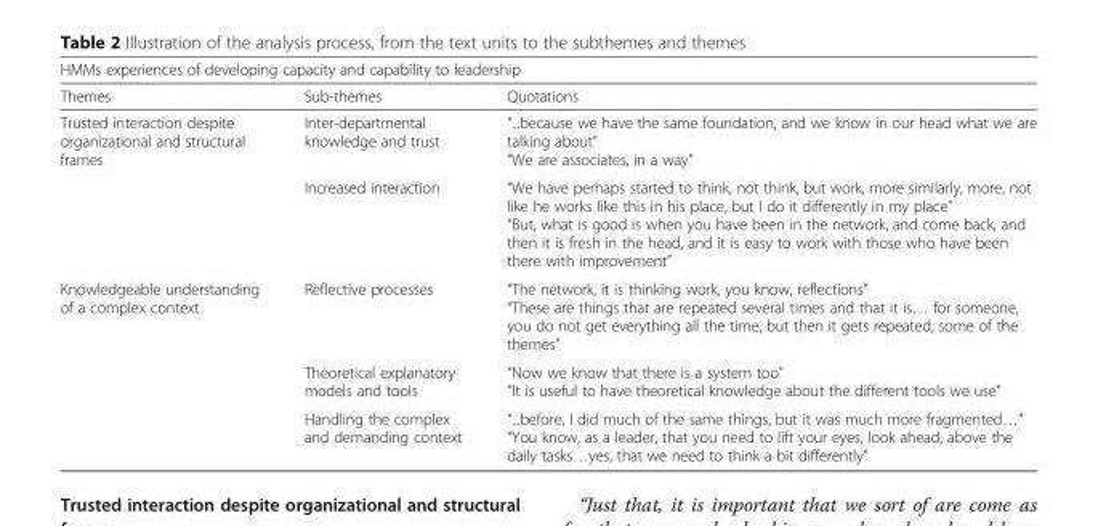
<table><thead><tr><td colspan="3">HMMs experiences of developing capacity and capability to leadership</td></tr><tr><td>Themes</td><td>Sub-themes</td><td>Quotations</td></tr></thead><tbody><tr><td rowspan="2">Trusted interaction despite organizational and structural frames</td><td>Inter-departmental knowledge and trust</td><td>“...because we have the same foundation, and we know in our head what we are talking about” “We are associates, in a way”</td></tr><tr><td>Increased interaction</td><td>“We have perhaps started to think, not think, but work, more similarly, more, not like he works like this in his place, but I do it differently in my place” “But, what is good is when you have been in the network, and come back, and then it is fresh in the head, and it is easy to work with those who have been there with improvement”</td></tr><tr><td rowspan="3">Knowledgeable understanding of a complex context</td><td>Reflective processes</td><td>“The network, it is thinking work, you know, reflections” “These are things that are repeated several times and that it is… for someone, you do not get everything all the time, but then it gets repeated, some of the themes”</td></tr><tr><td>Theoretical explanatory models and tools</td><td>“Now we know that there is a system too” “It is useful to have theoretical knowledge about the different tools we use”</td></tr><tr><td>Handling the complex and demanding context</td><td>“...before, I did much of the same things, but it was much more fragmented…” “You know, as a leader, that you need to lift your eyes, look ahead, above the daily tasks…yes, that we need to think a bit differently”</td></tr></tbody></table>